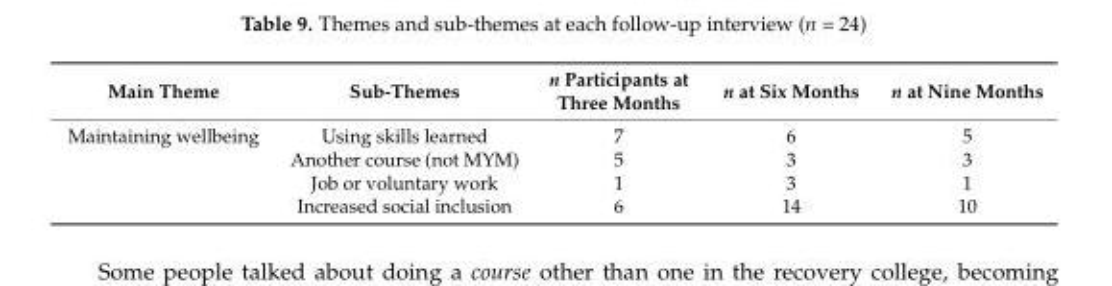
<table><thead><tr><td>Main Theme</td><td>Sub-Themes</td><td>n Participants at Three Months</td><td>n at Six Months</td><td>n at Nine Months</td></tr></thead><tbody><tr><td rowspan="4">Maintaining wellbeing</td><td>Using skills learned</td><td>7</td><td>6</td><td>5</td></tr><tr><td>Another course (not MYM)</td><td>5</td><td>3</td><td>3</td></tr><tr><td>Job or voluntary work</td><td>1</td><td>3</td><td>1</td></tr><tr><td>Increased social inclusion</td><td>6</td><td>14</td><td>10</td></tr></tbody></table>